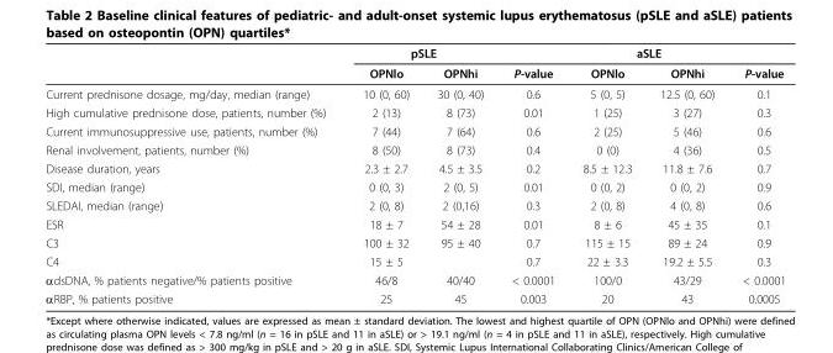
<table><thead><tr><td rowspan="2"></td><td colspan="2">pSLE</td><td rowspan="2">P-value</td><td colspan="2">aSLE</td><td rowspan="2">P-value</td></tr><tr><td>OPNlo</td><td>OPNhi</td><td>OPNlo</td><td>OPNhi</td></tr></thead><tbody><tr><td>Current prednisone dosage, mg/day, median (range)</td><td>10 (0, 60)</td><td>30 (0, 40)</td><td>0.6</td><td>5 (0, 5)</td><td>12.5 (0, 60)</td><td>0.1</td></tr><tr><td>High cumulative prednisone dose, patients, number (%)</td><td>2 (13)</td><td>8 (73)</td><td>0.01</td><td>1 (25)</td><td>3 (27)</td><td>0.3</td></tr><tr><td>Current immunosuppressive use, patients, number (%)</td><td>7 (44)</td><td>7 (64)</td><td>0.6</td><td>2 (25)</td><td>5 (46)</td><td>0.6</td></tr><tr><td>Renal involvement, patients, number (%)</td><td>8 (50)</td><td>8 (73)</td><td>0.4</td><td>0 (0)</td><td>4 (36)</td><td>0.5</td></tr><tr><td>Disease duration, years</td><td>2.3 ± 2.7</td><td>4.5 ± 3.5</td><td>0.2</td><td>8.5 ± 12.3</td><td>11.8 ± 7.6</td><td>0.7</td></tr><tr><td>SDI, median (range)</td><td>0 (0, 3)</td><td>2 (0, 5)</td><td>0.01</td><td>0 (0, 2)</td><td>0 (0, 2)</td><td>0.9</td></tr><tr><td>SLEDAI, median (range)</td><td>2 (0, 8)</td><td>2 (0,16)</td><td>0.3</td><td>2 (0, 8)</td><td>4 (0, 8)</td><td>0.6</td></tr><tr><td>ESR</td><td>18 ± 7</td><td>54 ± 28</td><td>0.01</td><td>8 ± 6</td><td>45 ± 35</td><td>0.1</td></tr><tr><td>C3</td><td>100 ± 32</td><td>95 ± 40</td><td>0.7</td><td>115 ± 15</td><td>89 ± 24</td><td>0.9</td></tr><tr><td>C4</td><td>15 ± 5</td><td></td><td>0.7</td><td>22 ± 3.3</td><td>19.2 ± 5.5</td><td>0.3</td></tr><tr><td>αdsDNA, % patients negative/% patients positive</td><td>46/8</td><td>40/40</td><td>&lt; 0.0001</td><td>100/0</td><td>43/29</td><td>&lt; 0.0001</td></tr><tr><td>αRBP, % patients positive</td><td>25</td><td>45</td><td>0.003</td><td>20</td><td>43</td><td>0.0005</td></tr></tbody></table>